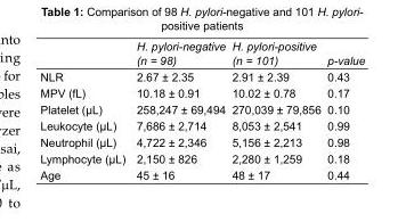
<table><thead><tr><td></td><td>H. pylori-negative (n = 98)</td><td>H. pylori-positive (n = 101)</td><td>p-value</td></tr></thead><tbody><tr><td>NLR</td><td>2.67 ± 2.35</td><td>2.91 ± 2.39</td><td>0.43</td></tr><tr><td>MPV (fL)</td><td>10.18 ± 0.91</td><td>10.02 ± 0.78</td><td>0.17</td></tr><tr><td>Platelet (µL)</td><td>258,247 ± 69,494</td><td>270,039 ± 79,856</td><td>0.10</td></tr><tr><td>Leukocyte (µL)</td><td>7,686 ± 2,714</td><td>8,053 ± 2,541</td><td>0.99</td></tr><tr><td>Neutrophil (µL)</td><td>4,722 ± 2,346</td><td>5,156 ± 2,213</td><td>0.98</td></tr><tr><td>Lymphocyte (µL)</td><td>2,150 ± 826</td><td>2,280 ± 1,259</td><td>0.18</td></tr><tr><td>Age</td><td>45 ± 16</td><td>48 ± 17</td><td>0.44</td></tr></tbody></table>